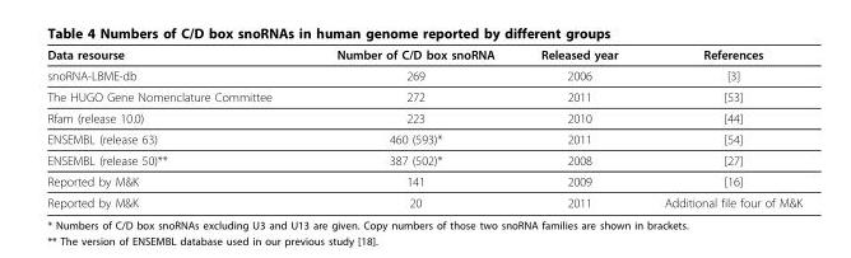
<table><thead><tr><td>Data resourse</td><td>Number of C/D box snoRNA</td><td>Released year</td><td>References</td></tr></thead><tbody><tr><td>snoRNA-LBME-db</td><td>269</td><td>2006</td><td>[3]</td></tr><tr><td>The HUGO Gene Nomenclature Committee</td><td>272</td><td>2011</td><td>[53]</td></tr><tr><td>Rfam (release 10.0)</td><td>223</td><td>2010</td><td>[44]</td></tr><tr><td>ENSEMBL (release 63)</td><td>460 (593)*</td><td>2011</td><td>[54]</td></tr><tr><td>ENSEMBL (release 50)**</td><td>387 (502)*</td><td>2008</td><td>[27]</td></tr><tr><td>Reported by M&amp;K</td><td>141</td><td>2009</td><td>[16]</td></tr><tr><td>Reported by M&amp;K</td><td>20</td><td>2011</td><td>Additional file four of M&amp;K</td></tr></tbody></table>